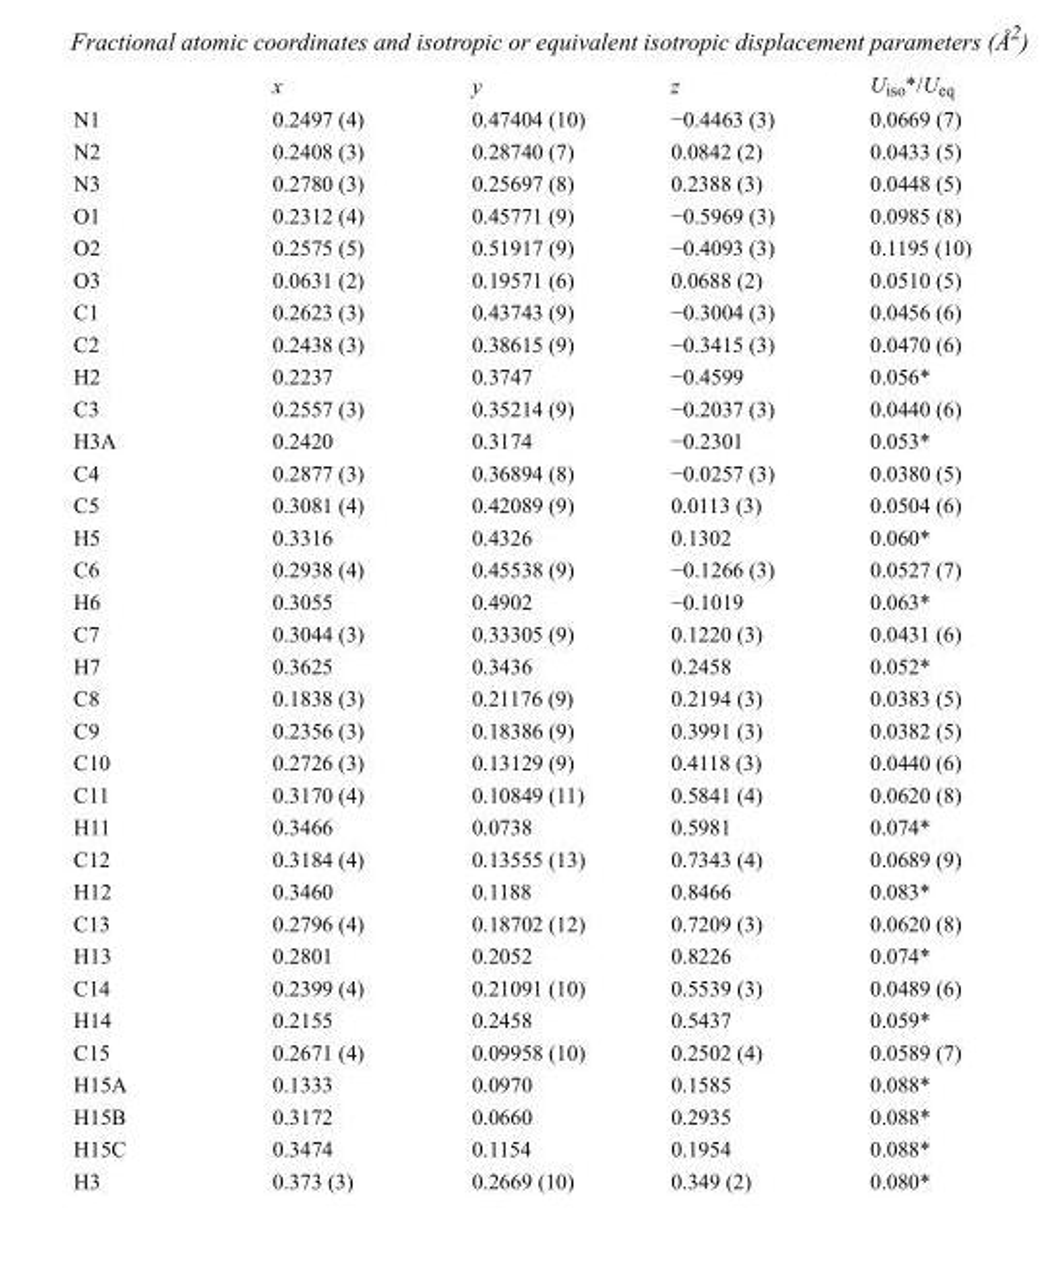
<table><thead><tr><td></td><td>x</td><td>y</td><td>z</td><td>U<sub>iso</sub>*/U<sub>eq</sub></td></tr></thead><tbody><tr><td>N1</td><td>0.2497 (4)</td><td>0.47404 (10)</td><td>−0.4463 (3)</td><td>0.0669 (7)</td></tr><tr><td>N2</td><td>0.2408 (3)</td><td>0.28740 (7)</td><td>0.0842 (2)</td><td>0.0433 (5)</td></tr><tr><td>N3</td><td>0.2780 (3)</td><td>0.25697 (8)</td><td>0.2388 (3)</td><td>0.0448 (5)</td></tr><tr><td>O1</td><td>0.2312 (4)</td><td>0.45771 (9)</td><td>−0.5969 (3)</td><td>0.0985 (8)</td></tr><tr><td>O2</td><td>0.2575 (5)</td><td>0.51917 (9)</td><td>−0.4093 (3)</td><td>0.1195 (10)</td></tr><tr><td>O3</td><td>0.0631 (2)</td><td>0.19571 (6)</td><td>0.0688 (2)</td><td>0.0510 (5)</td></tr><tr><td>C1</td><td>0.2623 (3)</td><td>0.43743 (9)</td><td>−0.3004 (3)</td><td>0.0456 (6)</td></tr><tr><td>C2</td><td>0.2438 (3)</td><td>0.38615 (9)</td><td>−0.3415 (3)</td><td>0.0470 (6)</td></tr><tr><td>H2</td><td>0.2237</td><td>0.3747</td><td>−0.4599</td><td>0.056*</td></tr><tr><td>C3</td><td>0.2557 (3)</td><td>0.35214 (9)</td><td>−0.2037 (3)</td><td>0.0440 (6)</td></tr><tr><td>H3A</td><td>0.2420</td><td>0.3174</td><td>−0.2301</td><td>0.053*</td></tr><tr><td>C4</td><td>0.2877 (3)</td><td>0.36894 (8)</td><td>−0.0257 (3)</td><td>0.0380 (5)</td></tr><tr><td>C5</td><td>0.3081 (4)</td><td>0.42089 (9)</td><td>0.0113 (3)</td><td>0.0504 (6)</td></tr><tr><td>H5</td><td>0.3316</td><td>0.4326</td><td>0.1302</td><td>0.060*</td></tr><tr><td>C6</td><td>0.2938 (4)</td><td>0.45538 (9)</td><td>−0.1266 (3)</td><td>0.0527 (7)</td></tr><tr><td>H6</td><td>0.3055</td><td>0.4902</td><td>−0.1019</td><td>0.063*</td></tr><tr><td>C7</td><td>0.3044 (3)</td><td>0.33305 (9)</td><td>0.1220 (3)</td><td>0.0431 (6)</td></tr><tr><td>H7</td><td>0.3625</td><td>0.3436</td><td>0.2458</td><td>0.052*</td></tr><tr><td>C8</td><td>0.1838 (3)</td><td>0.21176 (9)</td><td>0.2194 (3)</td><td>0.0383 (5)</td></tr><tr><td>C9</td><td>0.2356 (3)</td><td>0.18386 (9)</td><td>0.3991 (3)</td><td>0.0382 (5)</td></tr><tr><td>C10</td><td>0.2726 (3)</td><td>0.13129 (9)</td><td>0.4118 (3)</td><td>0.0440 (6)</td></tr><tr><td>C11</td><td>0.3170 (4)</td><td>0.10849 (11)</td><td>0.5841 (4)</td><td>0.0620 (8)</td></tr><tr><td>H11</td><td>0.3466</td><td>0.0738</td><td>0.5981</td><td>0.074*</td></tr><tr><td>C12</td><td>0.3184 (4)</td><td>0.13555 (13)</td><td>0.7343 (4)</td><td>0.0689 (9)</td></tr><tr><td>H12</td><td>0.3460</td><td>0.1188</td><td>0.8466</td><td>0.083*</td></tr><tr><td>C13</td><td>0.2796 (4)</td><td>0.18702 (12)</td><td>0.7209 (3)</td><td>0.0620 (8)</td></tr><tr><td>H13</td><td>0.2801</td><td>0.2052</td><td>0.8226</td><td>0.074*</td></tr><tr><td>C14</td><td>0.2399 (4)</td><td>0.21091 (10)</td><td>0.5539 (3)</td><td>0.0489 (6)</td></tr><tr><td>H14</td><td>0.2155</td><td>0.2458</td><td>0.5437</td><td>0.059*</td></tr><tr><td>C15</td><td>0.2671 (4)</td><td>0.09958 (10)</td><td>0.2502 (4)</td><td>0.0589 (7)</td></tr><tr><td>H15A</td><td>0.1333</td><td>0.0970</td><td>0.1585</td><td>0.088*</td></tr><tr><td>H15B</td><td>0.3172</td><td>0.0660</td><td>0.2935</td><td>0.088*</td></tr><tr><td>H15C</td><td>0.3474</td><td>0.1154</td><td>0.1954</td><td>0.088*</td></tr><tr><td>H3</td><td>0.373 (3)</td><td>0.2669 (10)</td><td>0.349 (2)</td><td>0.080*</td></tr></tbody></table>